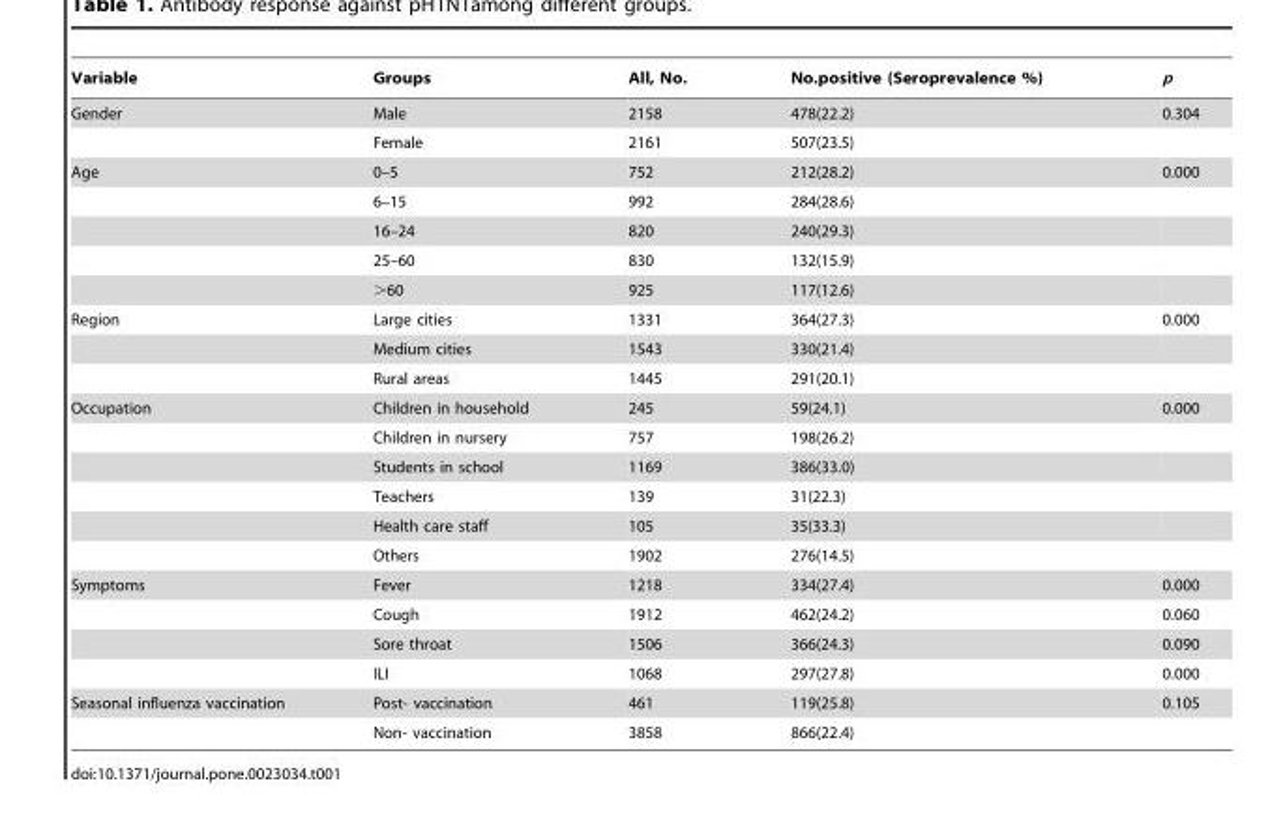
<table><thead><tr><td>Variable</td><td>Groups</td><td>All, No.</td><td>No.positive (Seroprevalence %)</td><td>p</td></tr></thead><tbody><tr><td rowspan="2">Gender</td><td>Male</td><td>2158</td><td>478(22.2)</td><td>0.304</td></tr><tr><td>Female</td><td>2161</td><td>507(23.5)</td><td></td></tr><tr><td rowspan="5">Age</td><td>0–5</td><td>752</td><td>212(28.2)</td><td>0.000</td></tr><tr><td>6–15</td><td>992</td><td>284(28.6)</td><td></td></tr><tr><td>16–24</td><td>820</td><td>240(29.3)</td><td></td></tr><tr><td>25–60</td><td>830</td><td>132(15.9)</td><td></td></tr><tr><td>&gt;60</td><td>925</td><td>117(12.6)</td><td></td></tr><tr><td rowspan="3">Region</td><td>Large cities</td><td>1331</td><td>364(27.3)</td><td>0.000</td></tr><tr><td>Medium cities</td><td>1543</td><td>330(21.4)</td><td></td></tr><tr><td>Rural areas</td><td>1445</td><td>291(20.1)</td><td></td></tr><tr><td rowspan="6">Occupation</td><td>Children in household</td><td>245</td><td>59(24.1)</td><td>0.000</td></tr><tr><td>Children in nursery</td><td>757</td><td>198(26.2)</td><td></td></tr><tr><td>Students in school</td><td>1169</td><td>386(33.0)</td><td></td></tr><tr><td>Teachers</td><td>139</td><td>31(22.3)</td><td></td></tr><tr><td>Health care staff</td><td>105</td><td>35(33.3)</td><td></td></tr><tr><td>Others</td><td>1902</td><td>276(14.5)</td><td></td></tr><tr><td rowspan="4">Symptoms</td><td>Fever</td><td>1218</td><td>334(27.4)</td><td>0.000</td></tr><tr><td>Cough</td><td>1912</td><td>462(24.2)</td><td>0.060</td></tr><tr><td>Sore throat</td><td>1506</td><td>366(24.3)</td><td>0.090</td></tr><tr><td>ILI</td><td>1068</td><td>297(27.8)</td><td>0.000</td></tr><tr><td rowspan="2">Seasonal influenza vaccination</td><td>Post- vaccination</td><td>461</td><td>119(25.8)</td><td>0.105</td></tr><tr><td>Non- vaccination</td><td>3858</td><td>866(22.4)</td><td></td></tr></tbody></table>